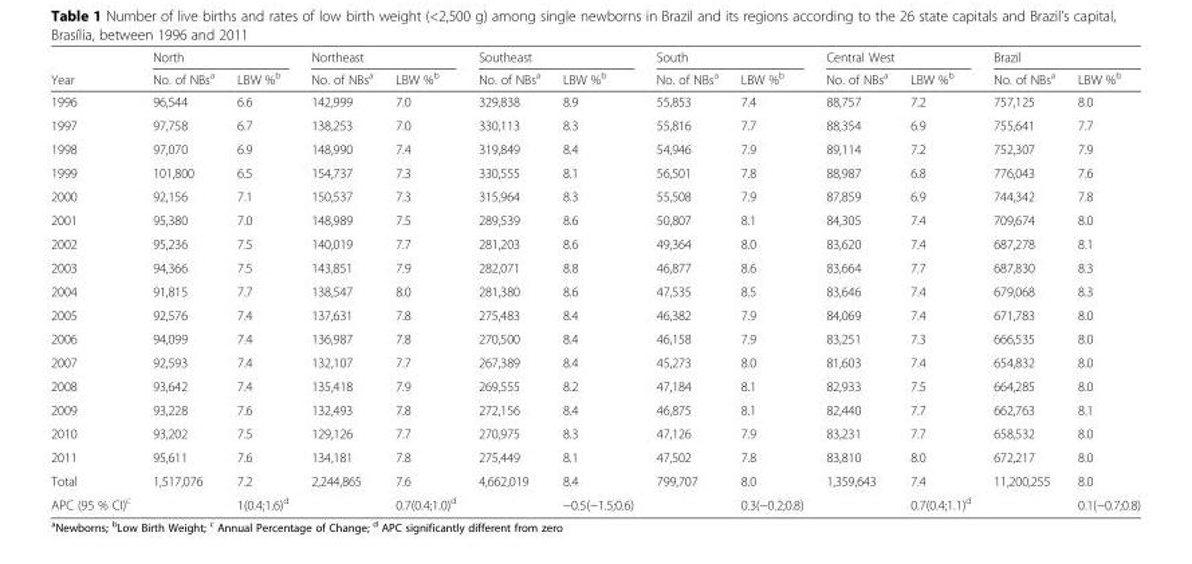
<table><thead><tr><td rowspan="2">Year</td><td colspan="2">North</td><td colspan="2">Northeast</td><td colspan="2">Southeast</td><td colspan="2">South</td><td colspan="2">Central West</td><td colspan="2">Brazil</td></tr><tr><td>No. of NBs<sup>a</sup></td><td>LBW %<sup>b</sup></td><td>No. of NBs<sup>a</sup></td><td>LBW %<sup>b</sup></td><td>No. of NBs<sup>a</sup></td><td>LBW %<sup>b</sup></td><td>No. of NBs<sup>a</sup></td><td>LBW %<sup>b</sup></td><td>No. of NBs<sup>a</sup></td><td>LBW %<sup>b</sup></td><td>No. of NBs<sup>a</sup></td><td>LBW %<sup>b</sup></td></tr></thead><tbody><tr><td>1996</td><td>96,544</td><td>6.6</td><td>142,999</td><td>7.0</td><td>329,838</td><td>8.9</td><td>55,853</td><td>7.4</td><td>88,757</td><td>7.2</td><td>757,125</td><td>8.0</td></tr><tr><td>1997</td><td>97,758</td><td>6.7</td><td>138,253</td><td>7.0</td><td>330,113</td><td>8.3</td><td>55,816</td><td>7.7</td><td>88,354</td><td>6.9</td><td>755,641</td><td>7.7</td></tr><tr><td>1998</td><td>97,070</td><td>6.9</td><td>148,990</td><td>7.4</td><td>319,849</td><td>8.4</td><td>54,946</td><td>7.9</td><td>89,114</td><td>7.2</td><td>752,307</td><td>7.9</td></tr><tr><td>1999</td><td>101,800</td><td>6.5</td><td>154,737</td><td>7.3</td><td>330,555</td><td>8.1</td><td>56,501</td><td>7.8</td><td>88,987</td><td>6.8</td><td>776,043</td><td>7.6</td></tr><tr><td>2000</td><td>92,156</td><td>7.1</td><td>150,537</td><td>7.3</td><td>315,964</td><td>8.3</td><td>55,508</td><td>7.9</td><td>87,859</td><td>6.9</td><td>744,342</td><td>7.8</td></tr><tr><td>2001</td><td>95,380</td><td>7.0</td><td>148,989</td><td>7.5</td><td>289,539</td><td>8.6</td><td>50,807</td><td>8.1</td><td>84,305</td><td>7.4</td><td>709,674</td><td>8.0</td></tr><tr><td>2002</td><td>95,236</td><td>7.5</td><td>140,019</td><td>7.7</td><td>281,203</td><td>8.6</td><td>49,364</td><td>8.0</td><td>83,620</td><td>7.4</td><td>687,278</td><td>8.1</td></tr><tr><td>2003</td><td>94,366</td><td>7.5</td><td>143,851</td><td>7.9</td><td>282,071</td><td>8.8</td><td>46,877</td><td>8.6</td><td>83,664</td><td>7.7</td><td>687,830</td><td>8.3</td></tr><tr><td>2004</td><td>91,815</td><td>7.7</td><td>138,547</td><td>8.0</td><td>281,380</td><td>8.6</td><td>47,535</td><td>8.5</td><td>83,646</td><td>7.4</td><td>679,068</td><td>8.3</td></tr><tr><td>2005</td><td>92,576</td><td>7.4</td><td>137,631</td><td>7.8</td><td>275,483</td><td>8.4</td><td>46,382</td><td>7.9</td><td>84,069</td><td>7.4</td><td>671,783</td><td>8.0</td></tr><tr><td>2006</td><td>94,099</td><td>7.4</td><td>136,987</td><td>7.8</td><td>270,500</td><td>8.4</td><td>46,158</td><td>7.9</td><td>83,251</td><td>7.3</td><td>666,535</td><td>8.0</td></tr><tr><td>2007</td><td>92,593</td><td>7.4</td><td>132,107</td><td>7.7</td><td>267,389</td><td>8.4</td><td>45,273</td><td>8.0</td><td>81,603</td><td>7.4</td><td>654,832</td><td>8.0</td></tr><tr><td>2008</td><td>93,642</td><td>7.4</td><td>135,418</td><td>7.9</td><td>269,555</td><td>8.2</td><td>47,184</td><td>8.1</td><td>82,933</td><td>7.5</td><td>664,285</td><td>8.0</td></tr><tr><td>2009</td><td>93,228</td><td>7.6</td><td>132,493</td><td>7.8</td><td>272,156</td><td>8.4</td><td>46,875</td><td>8.1</td><td>82,440</td><td>7.7</td><td>662,763</td><td>8.1</td></tr><tr><td>2010</td><td>93,202</td><td>7.5</td><td>129,126</td><td>7.7</td><td>270,975</td><td>8.3</td><td>47,126</td><td>7.9</td><td>83,231</td><td>7.7</td><td>658,532</td><td>8.0</td></tr><tr><td>2011</td><td>95,611</td><td>7.6</td><td>134,181</td><td>7.8</td><td>275,449</td><td>8.1</td><td>47,502</td><td>7.8</td><td>83,810</td><td>8.0</td><td>672,217</td><td>8.0</td></tr><tr><td>Total</td><td>1,517,076</td><td>7.2</td><td>2,244,865</td><td>7.6</td><td>4,662,019</td><td>8.4</td><td>799,707</td><td>8.0</td><td>1,359,643</td><td>7.4</td><td>11,200,255</td><td>8.0</td></tr><tr><td>APC (95 % CI)<sup>c</sup></td><td></td><td>1(0.4;1.6)<sup>d</sup></td><td></td><td>0.7(0.4;1.0)<sup>d</sup></td><td></td><td>−0.5(−1.5;0.6)</td><td></td><td>0.3(−0.2;0.8)</td><td></td><td>0.7(0.4;1.1)<sup>d</sup></td><td></td><td>0.1(−0.7;0.8)</td></tr></tbody></table>